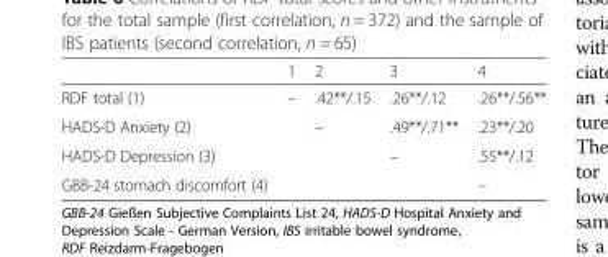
<table><thead><tr><td></td><td>1</td><td>2</td><td>3</td><td>4</td></tr></thead><tbody><tr><td>RDF total (1)</td><td>–</td><td>.42**/.15</td><td>.26**/.12</td><td>.26**/.56**</td></tr><tr><td>HADS-D Anxiety (2)</td><td></td><td>–</td><td>.49**/.71**</td><td>.23**/.20</td></tr><tr><td>HADS-D Depression (3)</td><td></td><td></td><td>–</td><td>.55**/.12</td></tr><tr><td>GBB-24 stomach discomfort (4)</td><td></td><td></td><td></td><td>–</td></tr></tbody></table>